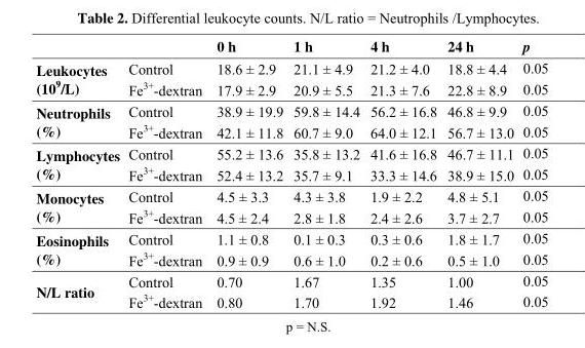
<table><thead><tr><td></td><td></td><td>0 h</td><td>1 h</td><td>4 h</td><td>24 h</td><td>p</td></tr></thead><tbody><tr><td rowspan="2">Leukocytes (10<sup>9</sup>/L)</td><td>Control</td><td>18.6 ± 2.9</td><td>21.1 ± 4.9</td><td>21.2 ± 4.0</td><td>18.8 ± 4.4</td><td>0.05</td></tr><tr><td>Fe<sup>3+</sup>-dextran</td><td>17.9 ± 2.9</td><td>20.9 ± 5.5</td><td>21.3 ± 7.6</td><td>22.8 ± 8.9</td><td>0.05</td></tr><tr><td rowspan="2">Neutrophils (%)</td><td>Control</td><td>38.9 ± 19.9</td><td>59.8 ± 14.4</td><td>56.2 ± 16.8</td><td>46.8 ± 9.9</td><td>0.05</td></tr><tr><td>Fe<sup>3+</sup>-dextran</td><td>42.1 ± 11.8</td><td>60.7 ± 9.0</td><td>64.0 ± 12.1</td><td>56.7 ± 13.0</td><td>0.05</td></tr><tr><td rowspan="2">Lymphocytes (%)</td><td>Control</td><td>55.2 ± 13.6</td><td>35.8 ± 13.2</td><td>41.6 ± 16.8</td><td>46.7 ± 11.1</td><td>0.05</td></tr><tr><td>Fe<sup>3+</sup>-dextran</td><td>52.4 ± 13.2</td><td>35.7 ± 9.1</td><td>33.3 ± 14.6</td><td>38.9 ± 15.0</td><td>0.05</td></tr><tr><td rowspan="2">Monocytes (%)</td><td>Control</td><td>4.5 ± 3.3</td><td>4.3 ± 3.8</td><td>1.9 ± 2.2</td><td>4.8 ± 5.1</td><td>0.05</td></tr><tr><td>Fe<sup>3+</sup>-dextran</td><td>4.5 ± 2.4</td><td>2.8 ± 1.8</td><td>2.4 ± 2.6</td><td>3.7 ± 2.7</td><td>0.05</td></tr><tr><td rowspan="2">Eosinophils (%)</td><td>Control</td><td>1.1 ± 0.8</td><td>0.1 ± 0.3</td><td>0.3 ± 0.6</td><td>1.8 ± 1.7</td><td>0.05</td></tr><tr><td>Fe<sup>3+</sup>-dextran</td><td>0.9 ± 0.9</td><td>0.6 ± 1.0</td><td>0.2 ± 0.6</td><td>0.5 ± 1.0</td><td>0.05</td></tr><tr><td rowspan="2">N/L ratio</td><td>Control</td><td>0.70</td><td>1.67</td><td>1.35</td><td>1.00</td><td>0.05</td></tr><tr><td>Fe<sup>3+</sup>-dextran</td><td>0.80</td><td>1.70</td><td>1.92</td><td>1.46</td><td>0.05</td></tr></tbody></table>